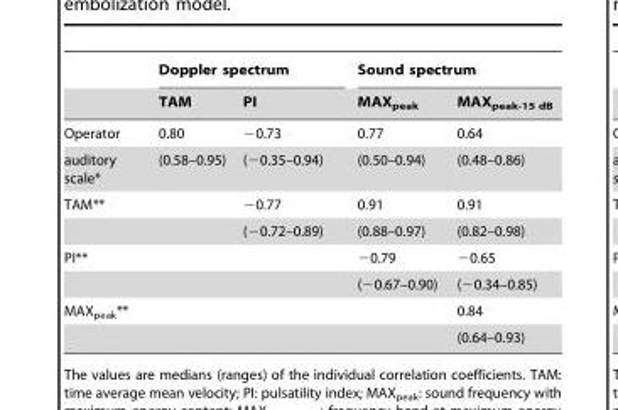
<table><thead><tr><td rowspan="2"></td><td colspan="2">Doppler spectrum</td><td colspan="2">Sound spectrum</td></tr><tr><td>TAM</td><td>PI</td><td>MAX<sub>peak</sub></td><td>MAX<sub>peak-15 dB</sub></td></tr></thead><tbody><tr><td>Operator</td><td>0.80</td><td>−0.73</td><td>0.77</td><td>0.64</td></tr><tr><td>auditory scale*</td><td>(0.58–0.95)</td><td>(−0.35–0.94)</td><td>(0.50–0.94)</td><td>(0.48–0.86)</td></tr><tr><td rowspan="2">TAM**</td><td></td><td>−0.77</td><td>0.91</td><td>0.91</td></tr><tr><td></td><td>(−0.72–0.89)</td><td>(0.88–0.97)</td><td>(0.82–0.98)</td></tr><tr><td rowspan="2">PI**</td><td></td><td></td><td>−0.79</td><td>−0.65</td></tr><tr><td></td><td></td><td>(−0.67–0.90)</td><td>(−0.34–0.85)</td></tr><tr><td rowspan="2">MAX<sub>peak</sub>**</td><td></td><td></td><td></td><td>0.84</td></tr><tr><td></td><td></td><td></td><td>(0.64–0.93)</td></tr></tbody></table>